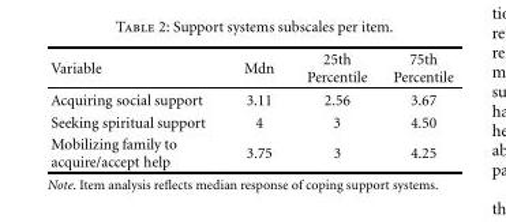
<table><thead><tr><td>Variable</td><td>Mdn</td><td>25th Percentile</td><td>75th Percentile</td></tr></thead><tbody><tr><td>Acquiring social support</td><td>3.11</td><td>2.56</td><td>3.67</td></tr><tr><td>Seeking spiritual support</td><td>4</td><td>3</td><td>4.50</td></tr><tr><td>Mobilizing family to acquire/accept help</td><td>3.75</td><td>3</td><td>4.25</td></tr></tbody></table>